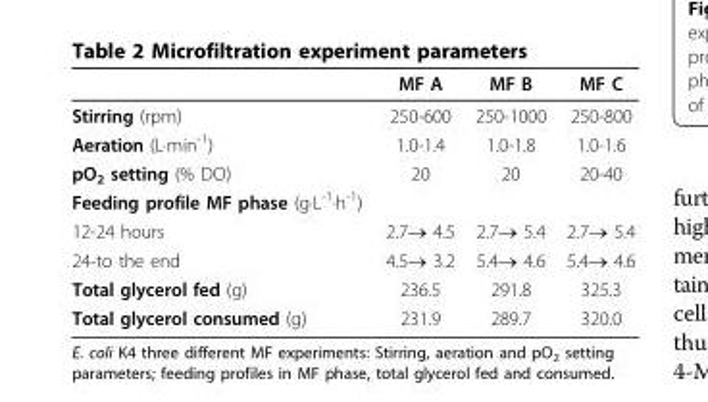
<table><thead><tr><td></td><td>MF A</td><td>MF B</td><td>MF C</td></tr></thead><tbody><tr><td>Stirring (rpm)</td><td>250-600</td><td>250-1000</td><td>250-800</td></tr><tr><td>Aeration (L·min<sup>-1</sup>)</td><td>1.0-1.4</td><td>1.0-1.8</td><td>1.0-1.6</td></tr><tr><td>pO<sub>2</sub> setting (% DO)</td><td>20</td><td>20</td><td>20-40</td></tr><tr><td colspan="4">Feeding profile MF phase (g·L<sup>-1</sup>·h<sup>-1</sup>)</td></tr><tr><td>12-24 hours</td><td>2.7→ 4.5</td><td>2.7→ 5.4</td><td>2.7→ 5.4</td></tr><tr><td>24-to the end</td><td>4.5→ 3.2</td><td>5.4→ 4.6</td><td>5.4→ 4.6</td></tr><tr><td>Total glycerol fed (g)</td><td>236.5</td><td>291.8</td><td>325.3</td></tr><tr><td>Total glycerol consumed (g)</td><td>231.9</td><td>289.7</td><td>320.0</td></tr></tbody></table>